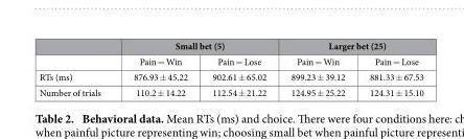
<table><thead><tr><td rowspan="2"></td><td colspan="2">Small bet (5)</td><td colspan="2">Larger bet (25)</td></tr><tr><td>Pain = Win</td><td>Pain = Lose</td><td>Pain = Win</td><td>Pain = Lose</td></tr></thead><tbody><tr><td>RTs (ms)</td><td>876.93 ± 45.22</td><td>902.61 ± 65.02</td><td>899.23 ± 39.12</td><td>881.33 ± 67.53</td></tr><tr><td>Number of trials</td><td>110.2 ± 14.22</td><td>112.54 ± 21.22</td><td>124.95 ± 25.22</td><td>124.31 ± 15.10</td></tr></tbody></table>